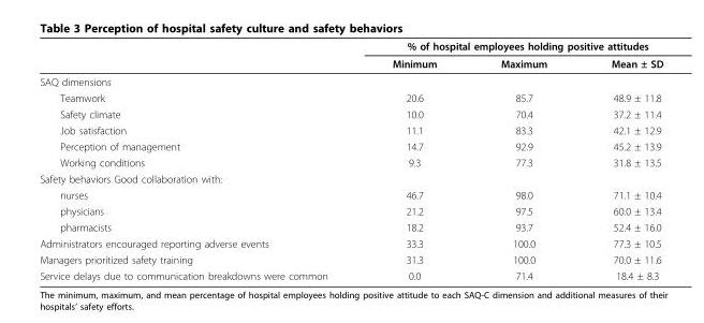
<table><thead><tr><td rowspan="2"></td><td colspan="3">% of hospital employees holding positive attitudes</td></tr><tr><td>Minimum</td><td>Maximum</td><td>Mean ± SD</td></tr></thead><tbody><tr><td colspan="4">SAQ dimensions</td></tr><tr><td>Teamwork</td><td>20.6</td><td>85.7</td><td>48.9 ± 11.8</td></tr><tr><td>Safety climate</td><td>10.0</td><td>70.4</td><td>37.2 ± 11.4</td></tr><tr><td>Job satisfaction</td><td>11.1</td><td>83.3</td><td>42.1 ± 12.9</td></tr><tr><td>Perception of management</td><td>14.7</td><td>92.9</td><td>45.2 ± 13.9</td></tr><tr><td>Working conditions</td><td>9.3</td><td>77.3</td><td>31.8 ± 13.5</td></tr><tr><td colspan="4">Safety behaviors Good collaboration with:</td></tr><tr><td>nurses</td><td>46.7</td><td>98.0</td><td>71.1 ± 10.4</td></tr><tr><td>physicians</td><td>21.2</td><td>97.5</td><td>60.0 ± 13.4</td></tr><tr><td>pharmacists</td><td>18.2</td><td>93.7</td><td>52.4 ± 16.0</td></tr><tr><td>Administrators encouraged reporting adverse events</td><td>33.3</td><td>100.0</td><td>77.3 ± 10.5</td></tr><tr><td>Managers prioritized safety training</td><td>31.3</td><td>100.0</td><td>70.0 ± 11.6</td></tr><tr><td>Service delays due to communication breakdowns were common</td><td>0.0</td><td>71.4</td><td>18.4 ± 8.3</td></tr></tbody></table>